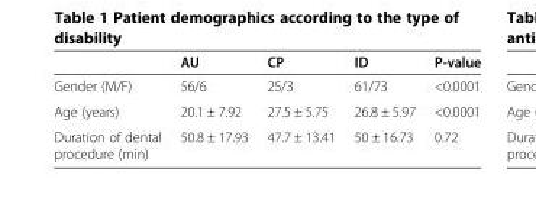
<table><thead><tr><td></td><td>AU</td><td>CP</td><td>ID</td><td>P-value</td></tr></thead><tbody><tr><td>Gender (M/F)</td><td>56/6</td><td>25/3</td><td>61/73</td><td>&lt;0.0001</td></tr><tr><td>Age (years)</td><td>20.1 ± 7.92</td><td>27.5 ± 5.75</td><td>26.8 ± 5.97</td><td>&lt;0.0001</td></tr><tr><td>Duration of dental procedure (min)</td><td>50.8 ± 17.93</td><td>47.7 ± 13.41</td><td>50 ± 16.73</td><td>0.72</td></tr></tbody></table>